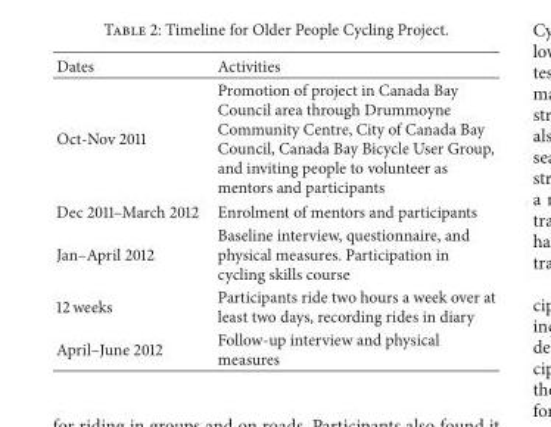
<table><thead><tr><td>Dates</td><td>Activities</td></tr></thead><tbody><tr><td>Oct-Nov 2011</td><td>Promotion of project in Canada Bay Council area through Drummoyne Community Centre, City of Canada Bay Council, Canada Bay Bicycle User Group, and inviting people to volunteer as mentors and participants</td></tr><tr><td>Dec 2011–March 2012</td><td>Enrolment of mentors and participants</td></tr><tr><td>Jan–April 2012</td><td>Baseline interview, questionnaire, and physical measures. Participation in cycling skills course</td></tr><tr><td>12 weeks</td><td>Participants ride two hours a week over at least two days, recording rides in diary</td></tr><tr><td>April–June 2012</td><td>Follow-up interview and physical measures</td></tr></tbody></table>